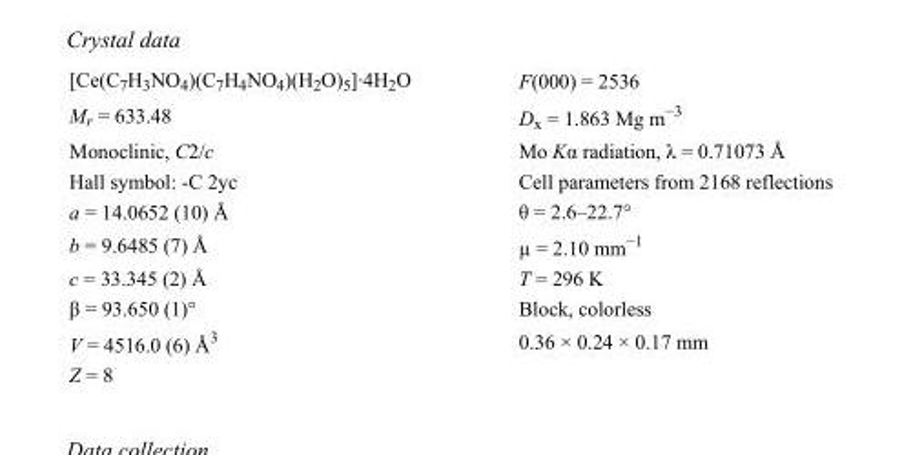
<table><tbody><tr><td>[Ce(C<sub>7</sub>H<sub>3</sub>NO<sub>4</sub>)(C<sub>7</sub>H<sub>4</sub>NO<sub>4</sub>)(H<sub>2</sub>O)<sub>5</sub>]·4H<sub>2</sub>O</td><td>F(000) = 2536</td></tr><tr><td>M<sub>r</sub> = 633.48</td><td>D<sub>x</sub> = 1.863 Mg m<sup>−3</sup></td></tr><tr><td>Monoclinic, C2/c</td><td>Mo Kα radiation, λ = 0.71073 Å</td></tr><tr><td>Hall symbol: -C 2yc</td><td>Cell parameters from 2168 reflections</td></tr><tr><td>a = 14.0652 (10) Å</td><td>θ = 2.6–22.7°</td></tr><tr><td>b = 9.6485 (7) Å</td><td>µ = 2.10 mm<sup>−1</sup></td></tr><tr><td>c = 33.345 (2) Å</td><td>T = 296 K</td></tr><tr><td>β = 93.650 (1)°</td><td>Block, colorless</td></tr><tr><td>V = 4516.0 (6) Å<sup>3</sup></td><td>0.36 × 0.24 × 0.17 mm</td></tr><tr><td>Z = 8</td><td></td></tr></tbody></table>